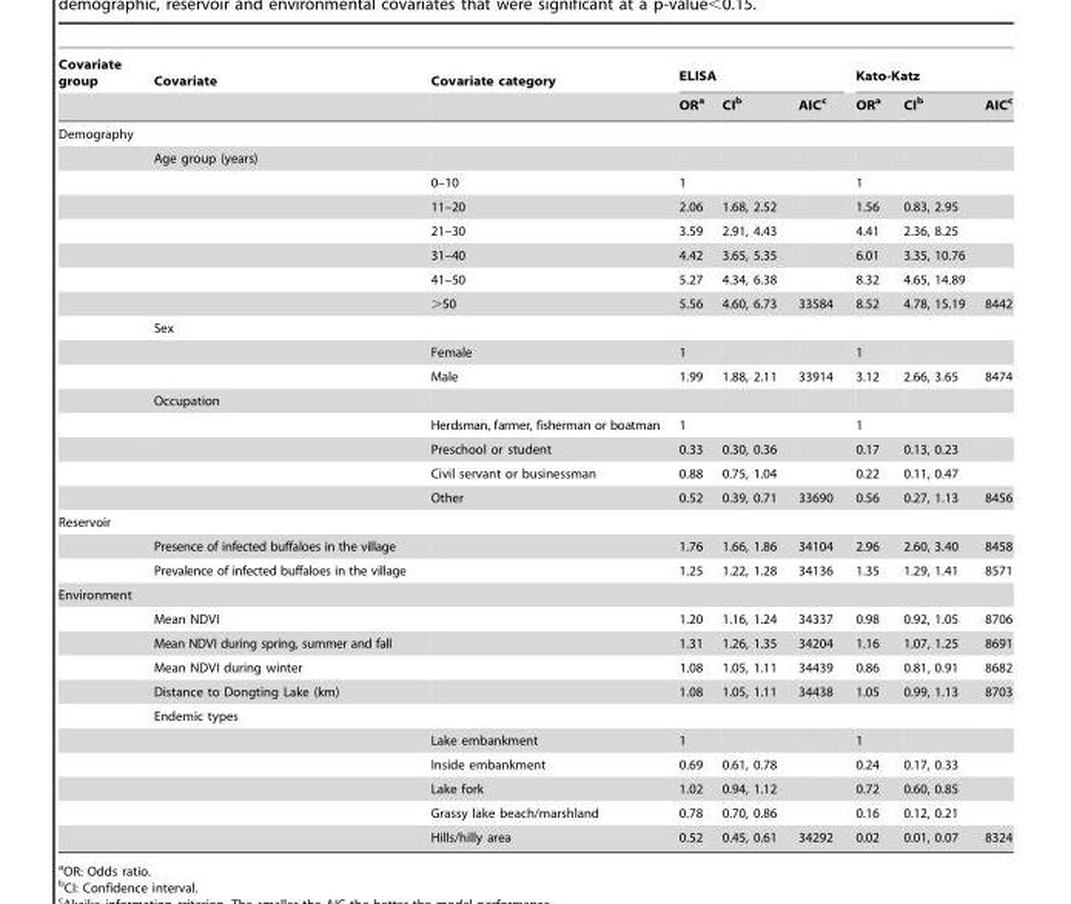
<table><thead><tr><td rowspan="2">Covariate group</td><td rowspan="2">Covariate</td><td rowspan="2">Covariate category</td><td colspan="3">ELISA</td><td colspan="3">Kato-Katz</td></tr><tr><td>OR<sup>a</sup></td><td>CI<sup>b</sup></td><td>AIC<sup>c</sup></td><td>OR<sup>a</sup></td><td>CI<sup>b</sup></td><td>AIC<sup>c</sup></td></tr></thead><tbody><tr><td colspan="9">Demography</td></tr><tr><td></td><td>Age group (years)</td><td></td><td></td><td></td><td></td><td></td><td></td><td></td></tr><tr><td></td><td></td><td>0–10</td><td>1</td><td></td><td></td><td>1</td><td></td><td></td></tr><tr><td></td><td></td><td>11–20</td><td>2.06</td><td>1.68, 2.52</td><td></td><td>1.56</td><td>0.83, 2.95</td><td></td></tr><tr><td></td><td></td><td>21–30</td><td>3.59</td><td>2.91, 4.43</td><td></td><td>4.41</td><td>2.36, 8.25</td><td></td></tr><tr><td></td><td></td><td>31–40</td><td>4.42</td><td>3.65, 5.35</td><td></td><td>6.01</td><td>3.35, 10.76</td><td></td></tr><tr><td></td><td></td><td>41–50</td><td>5.27</td><td>4.34, 6.38</td><td></td><td>8.32</td><td>4.65, 14.89</td><td></td></tr><tr><td></td><td></td><td>&gt;50</td><td>5.56</td><td>4.60, 6.73</td><td>33584</td><td>8.52</td><td>4.78, 15.19</td><td>8442</td></tr><tr><td></td><td>Sex</td><td></td><td></td><td></td><td></td><td></td><td></td><td></td></tr><tr><td></td><td></td><td>Female</td><td>1</td><td></td><td></td><td>1</td><td></td><td></td></tr><tr><td></td><td></td><td>Male</td><td>1.99</td><td>1.88, 2.11</td><td>33914</td><td>3.12</td><td>2.66, 3.65</td><td>8474</td></tr><tr><td></td><td>Occupation</td><td></td><td></td><td></td><td></td><td></td><td></td><td></td></tr><tr><td></td><td></td><td>Herdsman, farmer, fisherman or boatman</td><td>1</td><td></td><td></td><td>1</td><td></td><td></td></tr><tr><td></td><td></td><td>Preschool or student</td><td>0.33</td><td>0.30, 0.36</td><td></td><td>0.17</td><td>0.13, 0.23</td><td></td></tr><tr><td></td><td></td><td>Civil servant or businessman</td><td>0.88</td><td>0.75, 1.04</td><td></td><td>0.22</td><td>0.11, 0.47</td><td></td></tr><tr><td></td><td></td><td>Other</td><td>0.52</td><td>0.39, 0.71</td><td>33690</td><td>0.56</td><td>0.27, 1.13</td><td>8456</td></tr><tr><td colspan="9">Reservoir</td></tr><tr><td></td><td>Presence of infected buffaloes in the village</td><td></td><td>1.76</td><td>1.66, 1.86</td><td>34104</td><td>2.96</td><td>2.60, 3.40</td><td>8458</td></tr><tr><td></td><td>Prevalence of infected buffaloes in the village</td><td></td><td>1.25</td><td>1.22, 1.28</td><td>34136</td><td>1.35</td><td>1.29, 1.41</td><td>8571</td></tr><tr><td colspan="9">Environment</td></tr><tr><td></td><td>Mean NDVI</td><td></td><td>1.20</td><td>1.16, 1.24</td><td>34337</td><td>0.98</td><td>0.92, 1.05</td><td>8706</td></tr><tr><td></td><td>Mean NDVI during spring, summer and fall</td><td></td><td>1.31</td><td>1.26, 1.35</td><td>34204</td><td>1.16</td><td>1.07, 1.25</td><td>8691</td></tr><tr><td></td><td>Mean NDVI during winter</td><td></td><td>1.08</td><td>1.05, 1.11</td><td>34439</td><td>0.86</td><td>0.81, 0.91</td><td>8682</td></tr><tr><td></td><td>Distance to Dongting Lake (km)</td><td></td><td>1.08</td><td>1.05, 1.11</td><td>34438</td><td>1.05</td><td>0.99, 1.13</td><td>8703</td></tr><tr><td></td><td>Endemic types</td><td></td><td></td><td></td><td></td><td></td><td></td><td></td></tr><tr><td></td><td></td><td>Lake embankment</td><td>1</td><td></td><td></td><td>1</td><td></td><td></td></tr><tr><td></td><td></td><td>Inside embankment</td><td>0.69</td><td>0.61, 0.78</td><td></td><td>0.24</td><td>0.17, 0.33</td><td></td></tr><tr><td></td><td></td><td>Lake fork</td><td>1.02</td><td>0.94, 1.12</td><td></td><td>0.72</td><td>0.60, 0.85</td><td></td></tr><tr><td></td><td></td><td>Grassy lake beach/marshland</td><td>0.78</td><td>0.70, 0.86</td><td></td><td>0.16</td><td>0.12, 0.21</td><td></td></tr><tr><td></td><td></td><td>Hills/hilly area</td><td>0.52</td><td>0.45, 0.61</td><td>34292</td><td>0.02</td><td>0.01, 0.07</td><td>8324</td></tr></tbody></table>